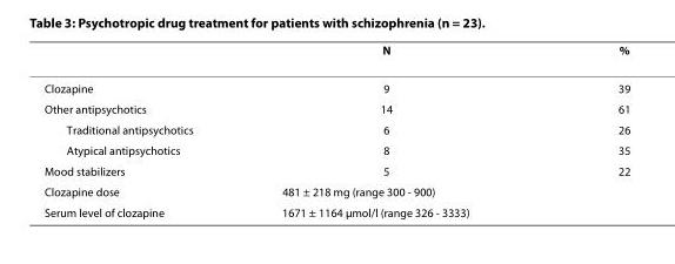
<table><thead><tr><td></td><td>N</td><td>%</td></tr></thead><tbody><tr><td>Clozapine</td><td>9</td><td>39</td></tr><tr><td>Other antipsychotics</td><td>14</td><td>61</td></tr><tr><td>Traditional antipsychotics</td><td>6</td><td>26</td></tr><tr><td>Atypical antipsychotics</td><td>8</td><td>35</td></tr><tr><td>Mood stabilizers</td><td>5</td><td>22</td></tr><tr><td>Clozapine dose</td><td colspan="2">481 ± 218 mg (range 300 - 900)</td></tr><tr><td>Serum level of clozapine</td><td colspan="2">1671 ± 1164 μmol/l (range 326 - 3333)</td></tr></tbody></table>